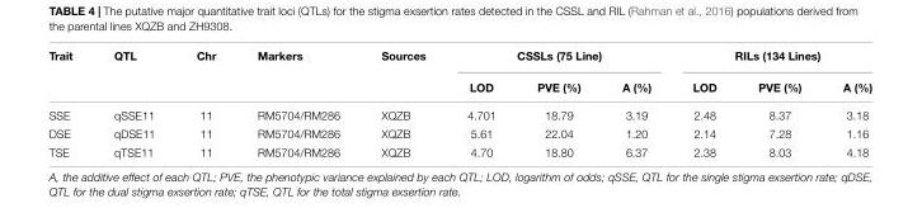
<table><thead><tr><td rowspan="2">Trait</td><td rowspan="2">QTL</td><td rowspan="2">Chr</td><td rowspan="2">Markers</td><td rowspan="2">Sources</td><td colspan="3">CSSLs (75 Line)</td><td colspan="3">RILs (134 Lines)</td></tr><tr><td>LOD</td><td>PVE (%)</td><td>A (%)</td><td>LOD</td><td>PVE (%)</td><td>A (%)</td></tr></thead><tbody><tr><td>SSE</td><td>qSSE11</td><td>11</td><td>RM5704/RM286</td><td>XQZB</td><td>4.701</td><td>18.79</td><td>3.19</td><td>2.48</td><td>8.37</td><td>3.18</td></tr><tr><td>DSE</td><td>qDSE11</td><td>11</td><td>RM5704/RM286</td><td>XQZB</td><td>5.61</td><td>22.04</td><td>1.20</td><td>2.14</td><td>7.28</td><td>1.16</td></tr><tr><td>TSE</td><td>qTSE11</td><td>11</td><td>RM5704/RM286</td><td>XQZB</td><td>4.70</td><td>18.80</td><td>6.37</td><td>2.38</td><td>8.03</td><td>4.18</td></tr></tbody></table>